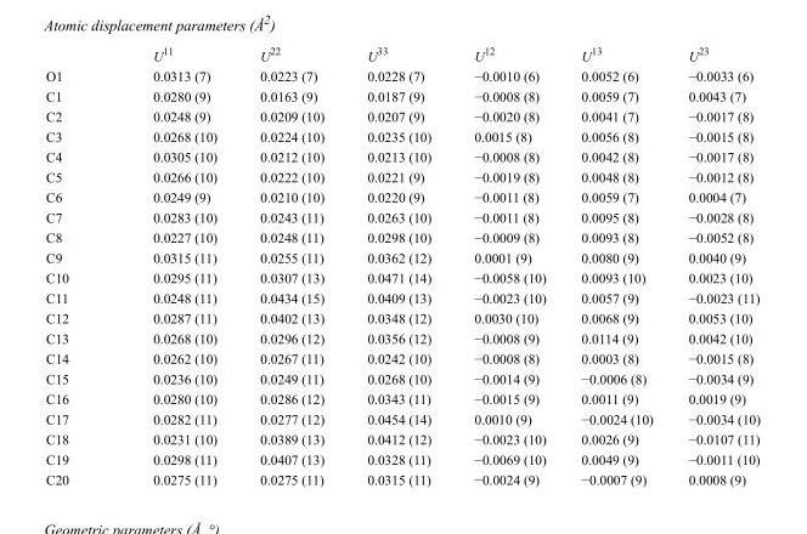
<table><thead><tr><td></td><td>U<sup>11</sup></td><td>U<sup>22</sup></td><td>U<sup>33</sup></td><td>U<sup>12</sup></td><td>U<sup>13</sup></td><td>U<sup>23</sup></td></tr></thead><tbody><tr><td>O1</td><td>0.0313 (7)</td><td>0.0223 (7)</td><td>0.0228 (7)</td><td>−0.0010 (6)</td><td>0.0052 (6)</td><td>−0.0033 (6)</td></tr><tr><td>C1</td><td>0.0280 (9)</td><td>0.0163 (9)</td><td>0.0187 (9)</td><td>−0.0008 (8)</td><td>0.0059 (7)</td><td>0.0043 (7)</td></tr><tr><td>C2</td><td>0.0248 (9)</td><td>0.0209 (10)</td><td>0.0207 (9)</td><td>−0.0020 (8)</td><td>0.0041 (7)</td><td>−0.0017 (8)</td></tr><tr><td>C3</td><td>0.0268 (10)</td><td>0.0224 (10)</td><td>0.0235 (10)</td><td>0.0015 (8)</td><td>0.0056 (8)</td><td>−0.0015 (8)</td></tr><tr><td>C4</td><td>0.0305 (10)</td><td>0.0212 (10)</td><td>0.0213 (10)</td><td>−0.0008 (8)</td><td>0.0042 (8)</td><td>−0.0017 (8)</td></tr><tr><td>C5</td><td>0.0266 (10)</td><td>0.0222 (10)</td><td>0.0221 (9)</td><td>−0.0019 (8)</td><td>0.0048 (8)</td><td>−0.0012 (8)</td></tr><tr><td>C6</td><td>0.0249 (9)</td><td>0.0210 (10)</td><td>0.0220 (9)</td><td>−0.0011 (8)</td><td>0.0059 (7)</td><td>0.0004 (7)</td></tr><tr><td>C7</td><td>0.0283 (10)</td><td>0.0243 (11)</td><td>0.0263 (10)</td><td>−0.0011 (8)</td><td>0.0095 (8)</td><td>−0.0028 (8)</td></tr><tr><td>C8</td><td>0.0227 (10)</td><td>0.0248 (11)</td><td>0.0298 (10)</td><td>−0.0009 (8)</td><td>0.0093 (8)</td><td>−0.0052 (8)</td></tr><tr><td>C9</td><td>0.0315 (11)</td><td>0.0255 (11)</td><td>0.0362 (12)</td><td>0.0001 (9)</td><td>0.0080 (9)</td><td>0.0040 (9)</td></tr><tr><td>C10</td><td>0.0295 (11)</td><td>0.0307 (13)</td><td>0.0471 (14)</td><td>−0.0058 (10)</td><td>0.0093 (10)</td><td>0.0023 (10)</td></tr><tr><td>C11</td><td>0.0248 (11)</td><td>0.0434 (15)</td><td>0.0409 (13)</td><td>−0.0023 (10)</td><td>0.0057 (9)</td><td>−0.0023 (11)</td></tr><tr><td>C12</td><td>0.0287 (11)</td><td>0.0402 (13)</td><td>0.0348 (12)</td><td>0.0030 (10)</td><td>0.0068 (9)</td><td>0.0053 (10)</td></tr><tr><td>C13</td><td>0.0268 (10)</td><td>0.0296 (12)</td><td>0.0356 (12)</td><td>−0.0008 (9)</td><td>0.0114 (9)</td><td>0.0042 (10)</td></tr><tr><td>C14</td><td>0.0262 (10)</td><td>0.0267 (11)</td><td>0.0242 (10)</td><td>−0.0008 (8)</td><td>0.0003 (8)</td><td>−0.0015 (8)</td></tr><tr><td>C15</td><td>0.0236 (10)</td><td>0.0249 (11)</td><td>0.0268 (10)</td><td>−0.0014 (9)</td><td>−0.0006 (8)</td><td>−0.0034 (9)</td></tr><tr><td>C16</td><td>0.0280 (10)</td><td>0.0286 (12)</td><td>0.0343 (11)</td><td>−0.0015 (9)</td><td>0.0011 (9)</td><td>0.0019 (9)</td></tr><tr><td>C17</td><td>0.0282 (11)</td><td>0.0277 (12)</td><td>0.0454 (14)</td><td>0.0010 (9)</td><td>−0.0024 (10)</td><td>−0.0034 (10)</td></tr><tr><td>C18</td><td>0.0231 (10)</td><td>0.0389 (13)</td><td>0.0412 (12)</td><td>−0.0023 (10)</td><td>0.0026 (9)</td><td>−0.0107 (11)</td></tr><tr><td>C19</td><td>0.0298 (11)</td><td>0.0407 (13)</td><td>0.0328 (11)</td><td>−0.0069 (10)</td><td>0.0049 (9)</td><td>−0.0011 (10)</td></tr><tr><td>C20</td><td>0.0275 (11)</td><td>0.0275 (11)</td><td>0.0315 (11)</td><td>−0.0024 (9)</td><td>−0.0007 (9)</td><td>0.0008 (9)</td></tr></tbody></table>